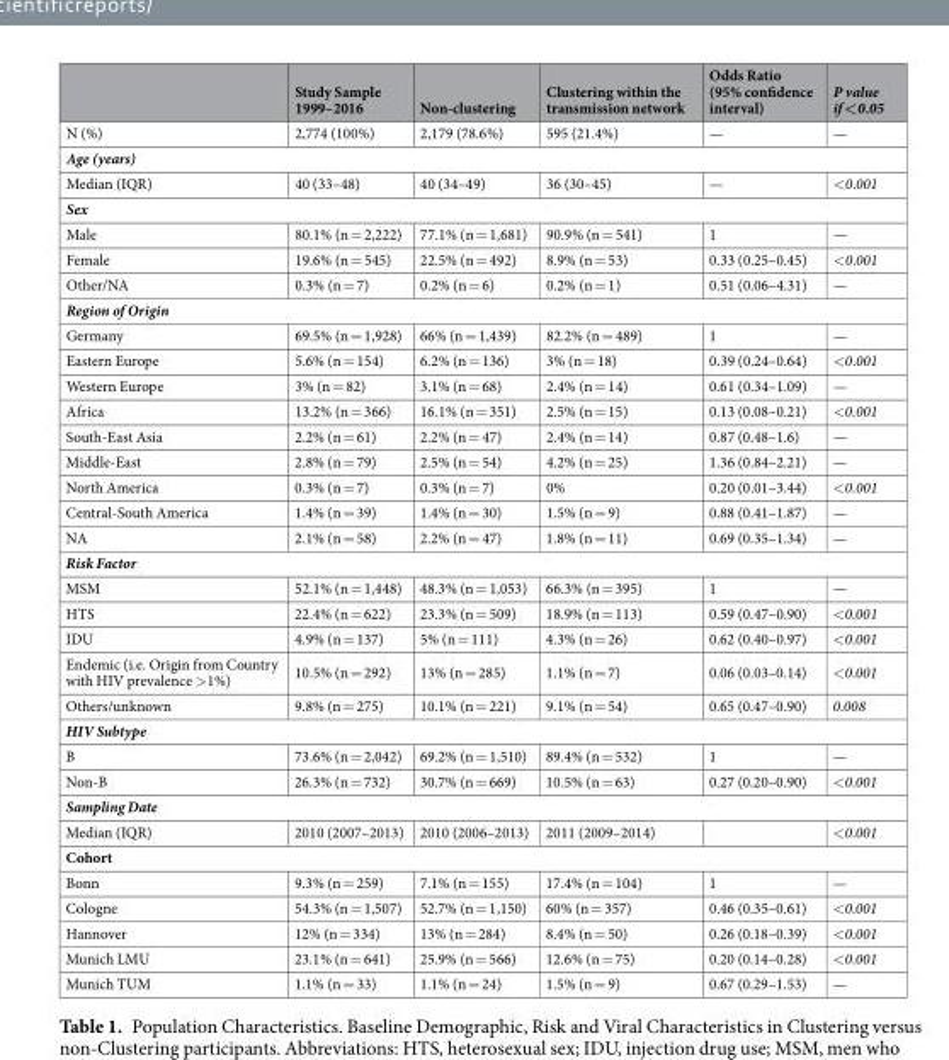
<table><thead><tr><td></td><td>Study Sample 1999–2016</td><td>Non-clustering</td><td>Clustering within the transmission network</td><td>Odds Ratio (95% confidence interval)</td><td>P value if &lt;0.05</td></tr></thead><tbody><tr><td>N (%)</td><td>2,774 (100%)</td><td>2,179 (78.6%)</td><td>595 (21.4%)</td><td>—</td><td>—</td></tr><tr><td colspan="6">Age (years)</td></tr><tr><td>Median (IQR)</td><td>40 (33–48)</td><td>40 (34–49)</td><td>36 (30–45)</td><td>—</td><td>&lt;0.001</td></tr><tr><td colspan="6">Sex</td></tr><tr><td>Male</td><td>80.1% (n = 2,222)</td><td>77.1% (n = 1,681)</td><td>90.9% (n = 541)</td><td>1</td><td>—</td></tr><tr><td>Female</td><td>19.6% (n = 545)</td><td>22.5% (n = 492)</td><td>8.9% (n = 53)</td><td>0.33 (0.25–0.45)</td><td>&lt;0.001</td></tr><tr><td>Other/NA</td><td>0.3% (n = 7)</td><td>0.2% (n = 6)</td><td>0.2% (n = 1)</td><td>0.51 (0.06–4.31)</td><td>—</td></tr><tr><td colspan="6">Region of Origin</td></tr><tr><td>Germany</td><td>69.5% (n = 1,928)</td><td>66% (n = 1,439)</td><td>82.2% (n = 489)</td><td>1</td><td>—</td></tr><tr><td>Eastern Europe</td><td>5.6% (n = 154)</td><td>6.2% (n = 136)</td><td>3% (n = 18)</td><td>0.39 (0.24–0.64)</td><td>&lt;0.001</td></tr><tr><td>Western Europe</td><td>3% (n = 82)</td><td>3.1% (n = 68)</td><td>2.4% (n = 14)</td><td>0.61 (0.34–1.09)</td><td>—</td></tr><tr><td>Africa</td><td>13.2% (n = 366)</td><td>16.1% (n = 351)</td><td>2.5% (n = 15)</td><td>0.13 (0.08–0.21)</td><td>&lt;0.001</td></tr><tr><td>South-East Asia</td><td>2.2% (n = 61)</td><td>2.2% (n = 47)</td><td>2.4% (n = 14)</td><td>0.87 (0.48–1.6)</td><td>—</td></tr><tr><td>Middle-East</td><td>2.8% (n = 79)</td><td>2.5% (n = 54)</td><td>4.2% (n = 25)</td><td>1.36 (0.84–2.21)</td><td>—</td></tr><tr><td>North America</td><td>0.3% (n = 7)</td><td>0.3% (n = 7)</td><td>0%</td><td>0.20 (0.01–3.44)</td><td>&lt;0.001</td></tr><tr><td>Central-South America</td><td>1.4% (n = 39)</td><td>1.4% (n = 30)</td><td>1.5% (n = 9)</td><td>0.88 (0.41–1.87)</td><td>—</td></tr><tr><td>NA</td><td>2.1% (n = 58)</td><td>2.2% (n = 47)</td><td>1.8% (n = 11)</td><td>0.69 (0.35–1.34)</td><td>—</td></tr><tr><td colspan="6">Risk Factor</td></tr><tr><td>MSM</td><td>52.1% (n = 1,448)</td><td>48.3% (n = 1,053)</td><td>66.3% (n = 395)</td><td>1</td><td>—</td></tr><tr><td>HTS</td><td>22.4% (n = 622)</td><td>23.3% (n = 509)</td><td>18.9% (n = 113)</td><td>0.59 (0.47–0.90)</td><td>&lt;0.001</td></tr><tr><td>IDU</td><td>4.9% (n = 137)</td><td>5% (n = 111)</td><td>4.3% (n = 26)</td><td>0.62 (0.40–0.97)</td><td>&lt;0.001</td></tr><tr><td>Endemic (i.e. Origin from Country with HIV prevalence &gt;1%)</td><td>10.5% (n = 292)</td><td>13% (n = 285)</td><td>1.1% (n = 7)</td><td>0.06 (0.03–0.14)</td><td>&lt;0.001</td></tr><tr><td>Others/unknown</td><td>9.8% (n = 275)</td><td>10.1% (n = 221)</td><td>9.1% (n = 54)</td><td>0.65 (0.47–0.90)</td><td>0.008</td></tr><tr><td colspan="6">HIV Subtype</td></tr><tr><td>B</td><td>73.6% (n = 2,042)</td><td>69.2% (n = 1,510)</td><td>89.4% (n = 532)</td><td>1</td><td>—</td></tr><tr><td>Non-B</td><td>26.3% (n = 732)</td><td>30.7% (n = 669)</td><td>10.5% (n = 63)</td><td>0.27 (0.20–0.90)</td><td>&lt;0.001</td></tr><tr><td colspan="6">Sampling Date</td></tr><tr><td>Median (IQR)</td><td>2010 (2007–2013)</td><td>2010 (2006–2013)</td><td>2011 (2009–2014)</td><td></td><td>&lt;0.001</td></tr><tr><td colspan="6">Cohort</td></tr><tr><td>Bonn</td><td>9.3% (n = 259)</td><td>7.1% (n = 155)</td><td>17.4% (n = 104)</td><td>1</td><td>—</td></tr><tr><td>Cologne</td><td>54.3% (n = 1,507)</td><td>52.7% (n = 1,150)</td><td>60% (n = 357)</td><td>0.46 (0.35–0.61)</td><td>&lt;0.001</td></tr><tr><td>Hannover</td><td>12% (n = 334)</td><td>13% (n = 284)</td><td>8.4% (n = 50)</td><td>0.26 (0.18–0.39)</td><td>&lt;0.001</td></tr><tr><td>Munich LMU</td><td>23.1% (n = 641)</td><td>25.9% (n = 566)</td><td>12.6% (n = 75)</td><td>0.20 (0.14–0.28)</td><td>&lt;0.001</td></tr><tr><td>Munich TUM</td><td>1.1% (n = 33)</td><td>1.1% (n = 24)</td><td>1.5% (n = 9)</td><td>0.67 (0.29–1.53)</td><td>—</td></tr></tbody></table>